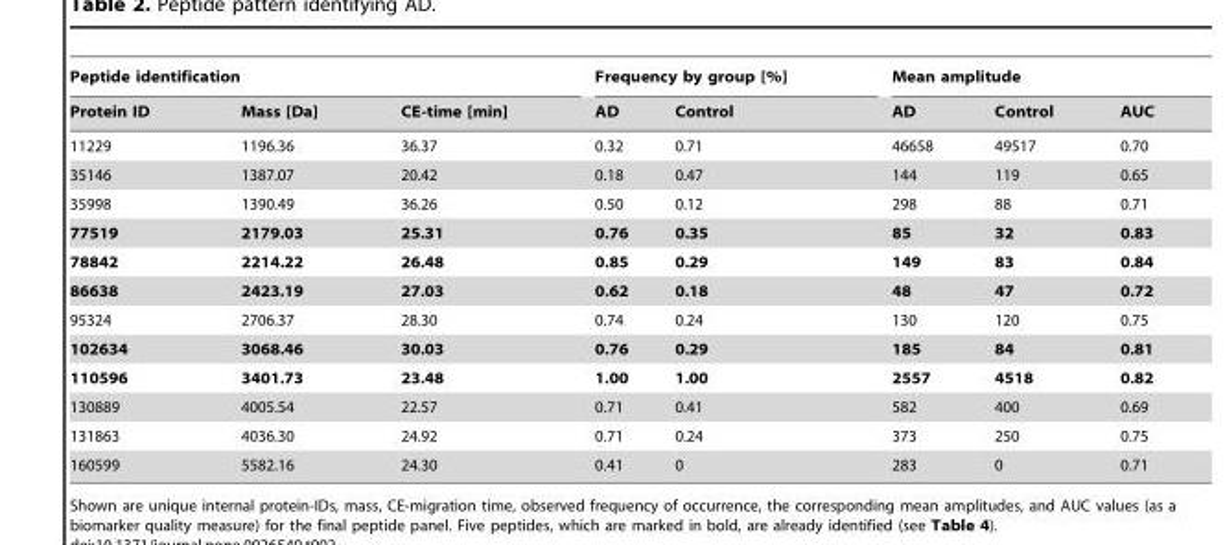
<table><thead><tr><td colspan="3">Peptide identification</td><td colspan="2">Frequency by group [%]</td><td colspan="3">Mean amplitude</td></tr><tr><td>Protein ID</td><td>Mass [Da]</td><td>CE-time [min]</td><td>AD</td><td>Control</td><td>AD</td><td>Control</td><td>AUC</td></tr></thead><tbody><tr><td>11229</td><td>1196.36</td><td>36.37</td><td>0.32</td><td>0.71</td><td>46658</td><td>49517</td><td>0.70</td></tr><tr><td>35146</td><td>1387.07</td><td>20.42</td><td>0.18</td><td>0.47</td><td>144</td><td>119</td><td>0.65</td></tr><tr><td>35998</td><td>1390.49</td><td>36.26</td><td>0.50</td><td>0.12</td><td>298</td><td>88</td><td>0.71</td></tr><tr><td>77519</td><td>2179.03</td><td>25.31</td><td>0.76</td><td>0.35</td><td>85</td><td>32</td><td>0.83</td></tr><tr><td>78842</td><td>2214.22</td><td>26.48</td><td>0.85</td><td>0.29</td><td>149</td><td>83</td><td>0.84</td></tr><tr><td>86638</td><td>2423.19</td><td>27.03</td><td>0.62</td><td>0.18</td><td>48</td><td>47</td><td>0.72</td></tr><tr><td>95324</td><td>2706.37</td><td>28.30</td><td>0.74</td><td>0.24</td><td>130</td><td>120</td><td>0.75</td></tr><tr><td>102634</td><td>3068.46</td><td>30.03</td><td>0.76</td><td>0.29</td><td>185</td><td>84</td><td>0.81</td></tr><tr><td>110596</td><td>3401.73</td><td>23.48</td><td>1.00</td><td>1.00</td><td>2557</td><td>4518</td><td>0.82</td></tr><tr><td>130889</td><td>4005.54</td><td>22.57</td><td>0.71</td><td>0.41</td><td>582</td><td>400</td><td>0.69</td></tr><tr><td>131863</td><td>4036.30</td><td>24.92</td><td>0.71</td><td>0.24</td><td>373</td><td>250</td><td>0.75</td></tr><tr><td>160599</td><td>5582.16</td><td>24.30</td><td>0.41</td><td>0</td><td>283</td><td>0</td><td>0.71</td></tr></tbody></table>